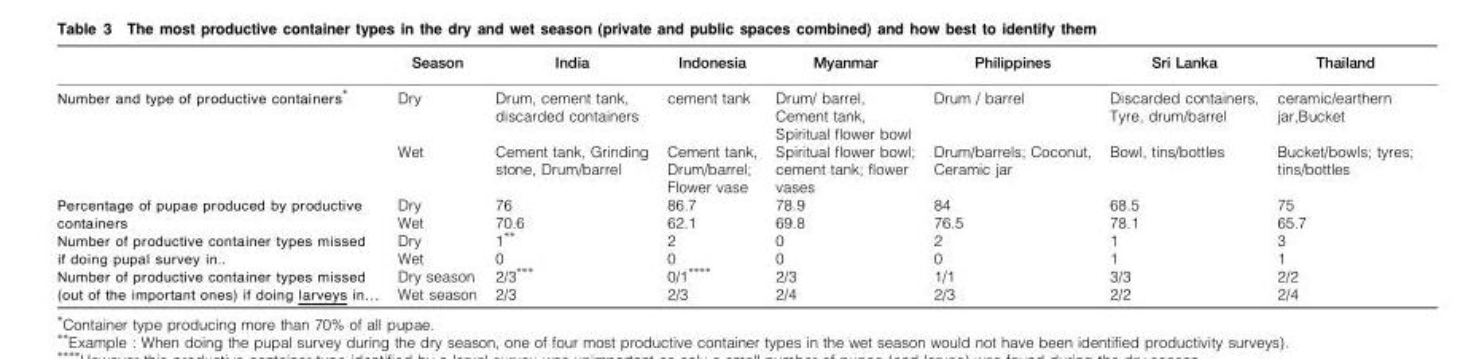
<table><thead><tr><td></td><td>Season</td><td>India</td><td>Indonesia</td><td>Myanmar</td><td>Philippines</td><td>Sri Lanka</td><td>Thailand</td></tr></thead><tbody><tr><td rowspan="2">Number and type of productive containers*</td><td>Dry</td><td>Drum, cement tank, discarded containers</td><td>cement tank</td><td>Drum/ barrel, Cement tank, Spiritual flower bowl</td><td>Drum / barrel</td><td>Discarded containers, Tyre, drum/barrel</td><td>ceramic/earthern jar,Bucket</td></tr><tr><td>Wet</td><td>Cement tank, Grinding stone, Drum/barrel</td><td>Cement tank, Drum/barrel; Flower vase</td><td>Spiritual flower bowl; cement tank; flower vases</td><td>Drum/barrels; Coconut, Ceramic jar</td><td>Bowl, tins/bottles</td><td>Bucket/bowls; tyres; tins/bottles</td></tr><tr><td rowspan="2">Percentage of pupae produced by productive containers</td><td>Dry</td><td>76</td><td>86.7</td><td>78.9</td><td>84</td><td>68.5</td><td>75</td></tr><tr><td>Wet</td><td>70.6</td><td>62.1</td><td>69.8</td><td>76.5</td><td>78.1</td><td>65.7</td></tr><tr><td rowspan="2">Number of productive container types missed if doing pupal survey in..</td><td>Dry</td><td>1**</td><td>2</td><td>0</td><td>2</td><td>1</td><td>3</td></tr><tr><td>Wet</td><td>0</td><td>0</td><td>0</td><td>0</td><td>1</td><td>1</td></tr><tr><td rowspan="2">Number of productive container types missed (out of the important ones) if doing larveys in…</td><td>Dry season</td><td>2/3***</td><td>0/1****</td><td>2/3</td><td>1/1</td><td>3/3</td><td>2/2</td></tr><tr><td>Wet season</td><td>2/3</td><td>2/3</td><td>2/4</td><td>2/3</td><td>2/2</td><td>2/4</td></tr></tbody></table>